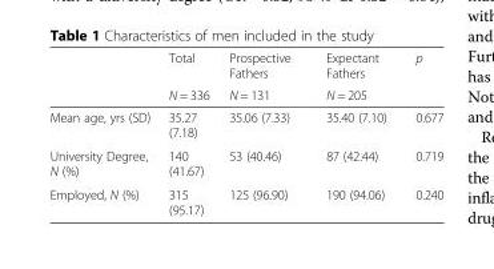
<table><thead><tr><td rowspan="2"></td><td rowspan="2">Total N = 336</td><td rowspan="2">Prospective Fathers N = 131</td><td rowspan="2">Expectant Fathers N = 205</td><td rowspan="2">p</td></tr><tr></tr></thead><tbody><tr><td>Mean age, yrs (SD)</td><td>35.27 (7.18)</td><td>35.06 (7.33)</td><td>35.40 (7.10)</td><td>0.677</td></tr><tr><td>University Degree, N (%)</td><td>140 (41.67)</td><td>53 (40.46)</td><td>87 (42.44)</td><td>0.719</td></tr><tr><td>Employed, N (%)</td><td>315 (95.17)</td><td>125 (96.90)</td><td>190 (94.06)</td><td>0.240</td></tr></tbody></table>